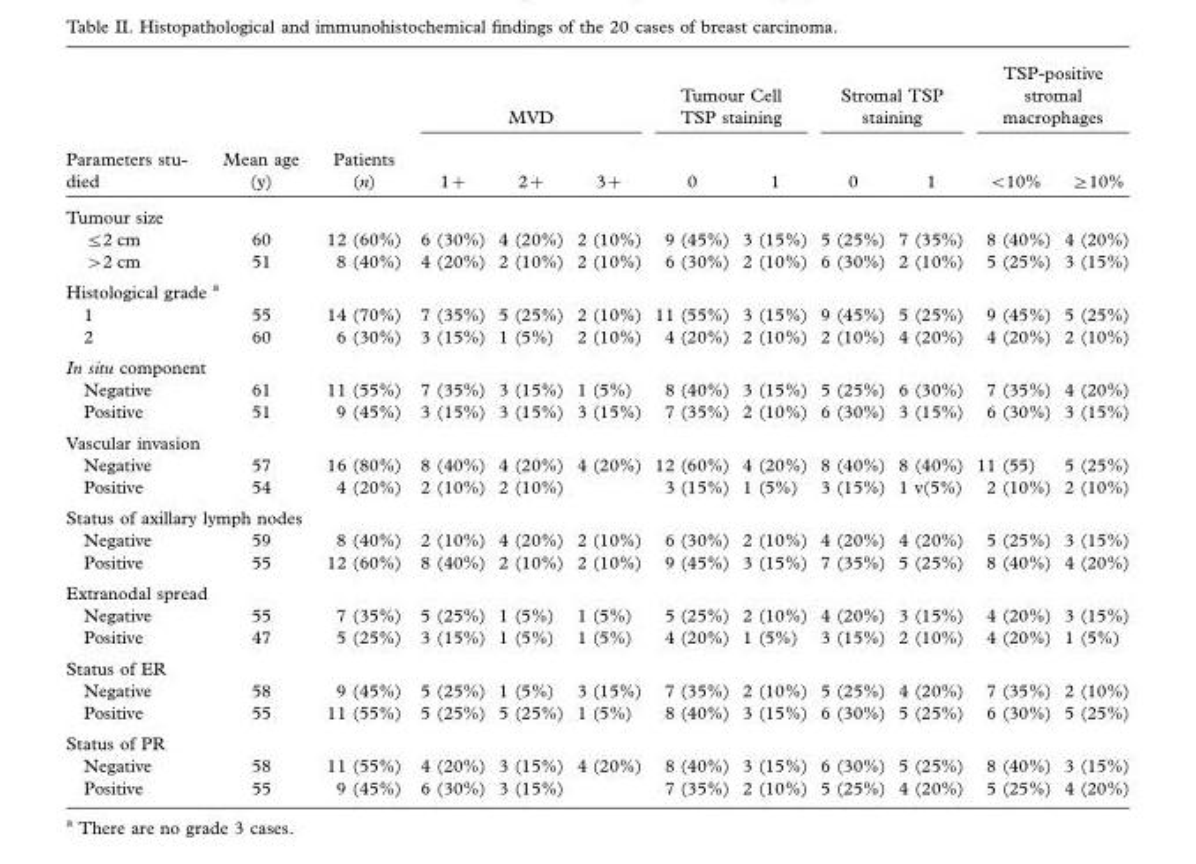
<table><thead><tr><td rowspan="2">Parameters stu- died</td><td rowspan="2">Mean age (y)</td><td rowspan="2">Patients (n)</td><td colspan="3">MVD</td><td colspan="2">Tumour Cell TSP staining</td><td colspan="2">Stromal TSP staining</td><td colspan="2">TSP-positive stromal macrophages</td></tr><tr><td>1+</td><td>2+</td><td>3+</td><td>0</td><td>1</td><td>0</td><td>1</td><td>&lt;10%</td><td>≥10%</td></tr></thead><tbody><tr><td colspan="12">Tumour size</td></tr><tr><td>≤2 cm</td><td>60</td><td>12 (60%)</td><td>6 (30%)</td><td>4 (20%)</td><td>2 (10%)</td><td>9 (45%)</td><td>3 (15%)</td><td>5 (25%)</td><td>7 (35%)</td><td>8 (40%)</td><td>4 (20%)</td></tr><tr><td>&gt;2 cm</td><td>51</td><td>8 (40%)</td><td>4 (20%)</td><td>2 (10%)</td><td>2 (10%)</td><td>6 (30%)</td><td>2 (10%)</td><td>6 (30%)</td><td>2 (10%)</td><td>5 (25%)</td><td>3 (15%)</td></tr><tr><td colspan="12">Histological grade <sup>a</sup></td></tr><tr><td>1</td><td>55</td><td>14 (70%)</td><td>7 (35%)</td><td>5 (25%)</td><td>2 (10%)</td><td>11 (55%)</td><td>3 (15%)</td><td>9 (45%)</td><td>5 (25%)</td><td>9 (45%)</td><td>5 (25%)</td></tr><tr><td>2</td><td>60</td><td>6 (30%)</td><td>3 (15%)</td><td>1 (5%)</td><td>2 (10%)</td><td>4 (20%)</td><td>2 (10%)</td><td>2 (10%)</td><td>4 (20%)</td><td>4 (20%)</td><td>2 (10%)</td></tr><tr><td colspan="12">In situ component</td></tr><tr><td>Negative</td><td>61</td><td>11 (55%)</td><td>7 (35%)</td><td>3 (15%)</td><td>1 (5%)</td><td>8 (40%)</td><td>3 (15%)</td><td>5 (25%)</td><td>6 (30%)</td><td>7 (35%)</td><td>4 (20%)</td></tr><tr><td>Positive</td><td>51</td><td>9 (45%)</td><td>3 (15%)</td><td>3 (15%)</td><td>3 (15%)</td><td>7 (35%)</td><td>2 (10%)</td><td>6 (30%)</td><td>3 (15%)</td><td>6 (30%)</td><td>3 (15%)</td></tr><tr><td colspan="12">Vascular invasion</td></tr><tr><td>Negative</td><td>57</td><td>16 (80%)</td><td>8 (40%)</td><td>4 (20%)</td><td>4 (20%)</td><td>12 (60%)</td><td>4 (20%)</td><td>8 (40%)</td><td>8 (40%)</td><td>11 (55)</td><td>5 (25%)</td></tr><tr><td>Positive</td><td>54</td><td>4 (20%)</td><td>2 (10%)</td><td>2 (10%)</td><td></td><td>3 (15%)</td><td>1 (5%)</td><td>3 (15%)</td><td>1 v(5%)</td><td>2 (10%)</td><td>2 (10%)</td></tr><tr><td colspan="12">Status of axillary lymph nodes</td></tr><tr><td>Negative</td><td>59</td><td>8 (40%)</td><td>2 (10%)</td><td>4 (20%)</td><td>2 (10%)</td><td>6 (30%)</td><td>2 (10%)</td><td>4 (20%)</td><td>4 (20%)</td><td>5 (25%)</td><td>3 (15%)</td></tr><tr><td>Positive</td><td>55</td><td>12 (60%)</td><td>8 (40%)</td><td>2 (10%)</td><td>2 (10%)</td><td>9 (45%)</td><td>3 (15%)</td><td>7 (35%)</td><td>5 (25%)</td><td>8 (40%)</td><td>4 (20%)</td></tr><tr><td colspan="12">Extranodal spread</td></tr><tr><td>Negative</td><td>55</td><td>7 (35%)</td><td>5 (25%)</td><td>1 (5%)</td><td>1 (5%)</td><td>5 (25%)</td><td>2 (10%)</td><td>4 (20%)</td><td>3 (15%)</td><td>4 (20%)</td><td>3 (15%)</td></tr><tr><td>Positive</td><td>47</td><td>5 (25%)</td><td>3 (15%)</td><td>1 (5%)</td><td>1 (5%)</td><td>4 (20%)</td><td>1 (5%)</td><td>3 (15%)</td><td>2 (10%)</td><td>4 (20%)</td><td>1 (5%)</td></tr><tr><td colspan="12">Status of ER</td></tr><tr><td>Negative</td><td>58</td><td>9 (45%)</td><td>5 (25%)</td><td>1 (5%)</td><td>3 (15%)</td><td>7 (35%)</td><td>2 (10%)</td><td>5 (25%)</td><td>4 (20%)</td><td>7 (35%)</td><td>2 (10%)</td></tr><tr><td>Positive</td><td>55</td><td>11 (55%)</td><td>5 (25%)</td><td>5 (25%)</td><td>1 (5%)</td><td>8 (40%)</td><td>3 (15%)</td><td>6 (30%)</td><td>5 (25%)</td><td>6 (30%)</td><td>5 (25%)</td></tr><tr><td colspan="12">Status of PR</td></tr><tr><td>Negative</td><td>58</td><td>11 (55%)</td><td>4 (20%)</td><td>3 (15%)</td><td>4 (20%)</td><td>8 (40%)</td><td>3 (15%)</td><td>6 (30%)</td><td>5 (25%)</td><td>8 (40%)</td><td>3 (15%)</td></tr><tr><td>Positive</td><td>55</td><td>9 (45%)</td><td>6 (30%)</td><td>3 (15%)</td><td></td><td>7 (35%)</td><td>2 (10%)</td><td>5 (25%)</td><td>4 (20%)</td><td>5 (25%)</td><td>4 (20%)</td></tr></tbody></table>